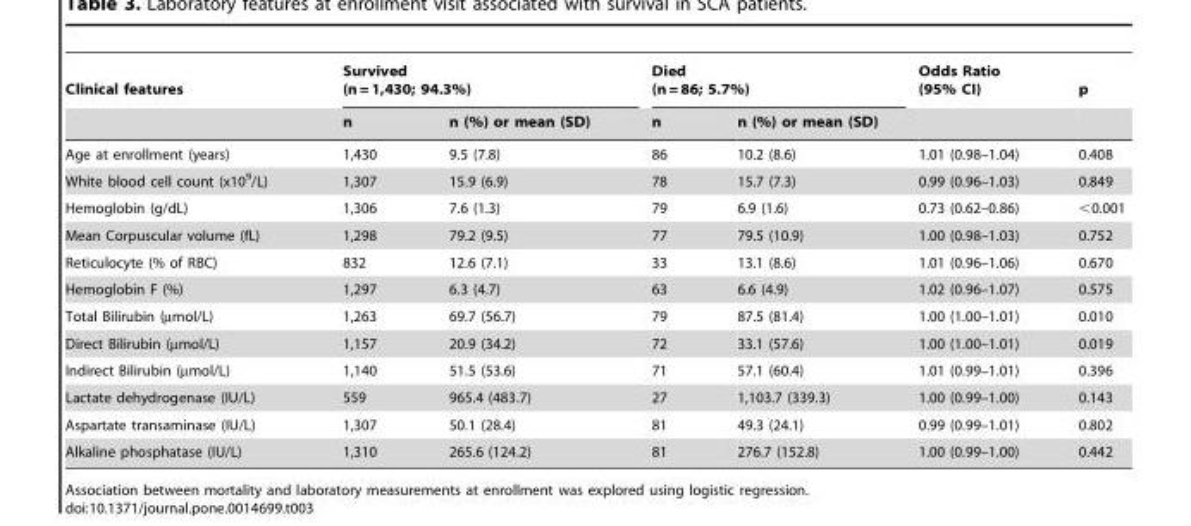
<table><thead><tr><td rowspan="2">Clinical features</td><td colspan="2">Survived (n = 1,430; 94.3%)</td><td colspan="2">Died (n = 86; 5.7%)</td><td rowspan="2">Odds Ratio (95% CI)</td><td rowspan="2">p</td></tr><tr><td>n</td><td>n (%) or mean (SD)</td><td>n</td><td>n (%) or mean (SD)</td></tr></thead><tbody><tr><td>Age at enrollment (years)</td><td>1,430</td><td>9.5 (7.8)</td><td>86</td><td>10.2 (8.6)</td><td>1.01 (0.98–1.04)</td><td>0.408</td></tr><tr><td>White blood cell count (x10<sup>9</sup>/L)</td><td>1,307</td><td>15.9 (6.9)</td><td>78</td><td>15.7 (7.3)</td><td>0.99 (0.96–1.03)</td><td>0.849</td></tr><tr><td>Hemoglobin (g/dL)</td><td>1,306</td><td>7.6 (1.3)</td><td>79</td><td>6.9 (1.6)</td><td>0.73 (0.62–0.86)</td><td>&lt;0.001</td></tr><tr><td>Mean Corpuscular volume (fL)</td><td>1,298</td><td>79.2 (9.5)</td><td>77</td><td>79.5 (10.9)</td><td>1.00 (0.98–1.03)</td><td>0.752</td></tr><tr><td>Reticulocyte (% of RBC)</td><td>832</td><td>12.6 (7.1)</td><td>33</td><td>13.1 (8.6)</td><td>1.01 (0.96–1.06)</td><td>0.670</td></tr><tr><td>Hemoglobin F (%)</td><td>1,297</td><td>6.3 (4.7)</td><td>63</td><td>6.6 (4.9)</td><td>1.02 (0.96–1.07)</td><td>0.575</td></tr><tr><td>Total Bilirubin (µmol/L)</td><td>1,263</td><td>69.7 (56.7)</td><td>79</td><td>87.5 (81.4)</td><td>1.00 (1.00–1.01)</td><td>0.010</td></tr><tr><td>Direct Bilirubin (µmol/L)</td><td>1,157</td><td>20.9 (34.2)</td><td>72</td><td>33.1 (57.6)</td><td>1.00 (1.00–1.01)</td><td>0.019</td></tr><tr><td>Indirect Bilirubin (µmol/L)</td><td>1,140</td><td>51.5 (53.6)</td><td>71</td><td>57.1 (60.4)</td><td>1.01 (0.99–1.01)</td><td>0.396</td></tr><tr><td>Lactate dehydrogenase (IU/L)</td><td>559</td><td>965.4 (483.7)</td><td>27</td><td>1,103.7 (339.3)</td><td>1.00 (0.99–1.00)</td><td>0.143</td></tr><tr><td>Aspartate transaminase (IU/L)</td><td>1,307</td><td>50.1 (28.4)</td><td>81</td><td>49.3 (24.1)</td><td>0.99 (0.99–1.01)</td><td>0.802</td></tr><tr><td>Alkaline phosphatase (IU/L)</td><td>1,310</td><td>265.6 (124.2)</td><td>81</td><td>276.7 (152.8)</td><td>1.00 (0.99–1.00)</td><td>0.442</td></tr></tbody></table>